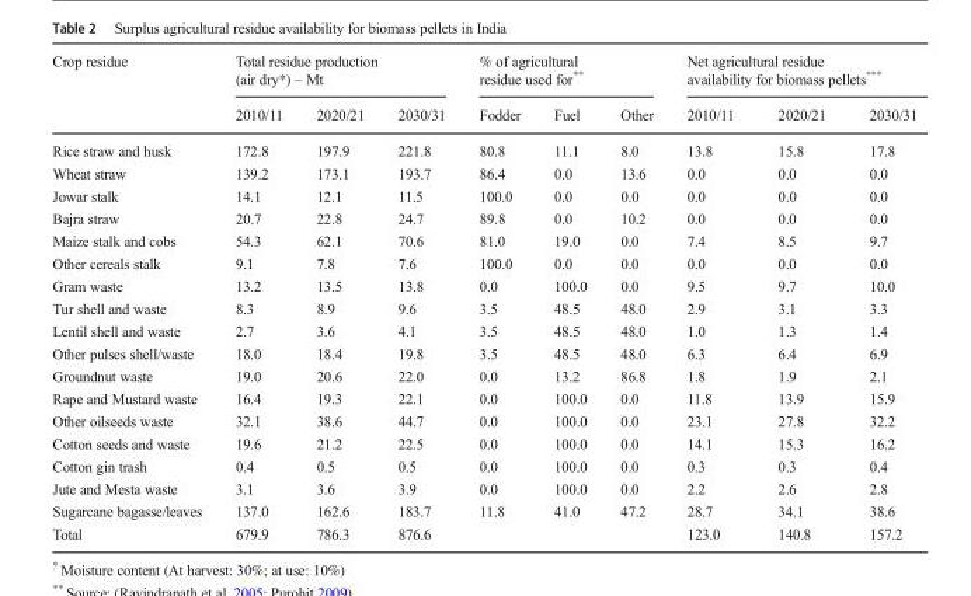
<table><thead><tr><td rowspan="2">Crop residue</td><td colspan="3">Total residue production (air dry*) – Mt</td><td colspan="3">% of agricultural residue used for**</td><td colspan="3">Net agricultural residue availability for biomass pellets***</td></tr><tr><td>2010/11</td><td>2020/21</td><td>2030/31</td><td>Fodder</td><td>Fuel</td><td>Other</td><td>2010/11</td><td>2020/21</td><td>2030/31</td></tr></thead><tbody><tr><td>Rice straw and husk</td><td>172.8</td><td>197.9</td><td>221.8</td><td>80.8</td><td>11.1</td><td>8.0</td><td>13.8</td><td>15.8</td><td>17.8</td></tr><tr><td>Wheat straw</td><td>139.2</td><td>173.1</td><td>193.7</td><td>86.4</td><td>0.0</td><td>13.6</td><td>0.0</td><td>0.0</td><td>0.0</td></tr><tr><td>Jowar stalk</td><td>14.1</td><td>12.1</td><td>11.5</td><td>100.0</td><td>0.0</td><td>0.0</td><td>0.0</td><td>0.0</td><td>0.0</td></tr><tr><td>Bajra straw</td><td>20.7</td><td>22.8</td><td>24.7</td><td>89.8</td><td>0.0</td><td>10.2</td><td>0.0</td><td>0.0</td><td>0.0</td></tr><tr><td>Maize stalk and cobs</td><td>54.3</td><td>62.1</td><td>70.6</td><td>81.0</td><td>19.0</td><td>0.0</td><td>7.4</td><td>8.5</td><td>9.7</td></tr><tr><td>Other cereals stalk</td><td>9.1</td><td>7.8</td><td>7.6</td><td>100.0</td><td>0.0</td><td>0.0</td><td>0.0</td><td>0.0</td><td>0.0</td></tr><tr><td>Gram waste</td><td>13.2</td><td>13.5</td><td>13.8</td><td>0.0</td><td>100.0</td><td>0.0</td><td>9.5</td><td>9.7</td><td>10.0</td></tr><tr><td>Tur shell and waste</td><td>8.3</td><td>8.9</td><td>9.6</td><td>3.5</td><td>48.5</td><td>48.0</td><td>2.9</td><td>3.1</td><td>3.3</td></tr><tr><td>Lentil shell and waste</td><td>2.7</td><td>3.6</td><td>4.1</td><td>3.5</td><td>48.5</td><td>48.0</td><td>1.0</td><td>1.3</td><td>1.4</td></tr><tr><td>Other pulses shell/waste</td><td>18.0</td><td>18.4</td><td>19.8</td><td>3.5</td><td>48.5</td><td>48.0</td><td>6.3</td><td>6.4</td><td>6.9</td></tr><tr><td>Groundnut waste</td><td>19.0</td><td>20.6</td><td>22.0</td><td>0.0</td><td>13.2</td><td>86.8</td><td>1.8</td><td>1.9</td><td>2.1</td></tr><tr><td>Rape and Mustard waste</td><td>16.4</td><td>19.3</td><td>22.1</td><td>0.0</td><td>100.0</td><td>0.0</td><td>11.8</td><td>13.9</td><td>15.9</td></tr><tr><td>Other oilseeds waste</td><td>32.1</td><td>38.6</td><td>44.7</td><td>0.0</td><td>100.0</td><td>0.0</td><td>23.1</td><td>27.8</td><td>32.2</td></tr><tr><td>Cotton seeds and waste</td><td>19.6</td><td>21.2</td><td>22.5</td><td>0.0</td><td>100.0</td><td>0.0</td><td>14.1</td><td>15.3</td><td>16.2</td></tr><tr><td>Cotton gin trash</td><td>0.4</td><td>0.5</td><td>0.5</td><td>0.0</td><td>100.0</td><td>0.0</td><td>0.3</td><td>0.3</td><td>0.4</td></tr><tr><td>Jute and Mesta waste</td><td>3.1</td><td>3.6</td><td>3.9</td><td>0.0</td><td>100.0</td><td>0.0</td><td>2.2</td><td>2.6</td><td>2.8</td></tr><tr><td>Sugarcane bagasse/leaves</td><td>137.0</td><td>162.6</td><td>183.7</td><td>11.8</td><td>41.0</td><td>47.2</td><td>28.7</td><td>34.1</td><td>38.6</td></tr><tr><td>Total</td><td>679.9</td><td>786.3</td><td>876.6</td><td></td><td></td><td></td><td>123.0</td><td>140.8</td><td>157.2</td></tr></tbody></table>